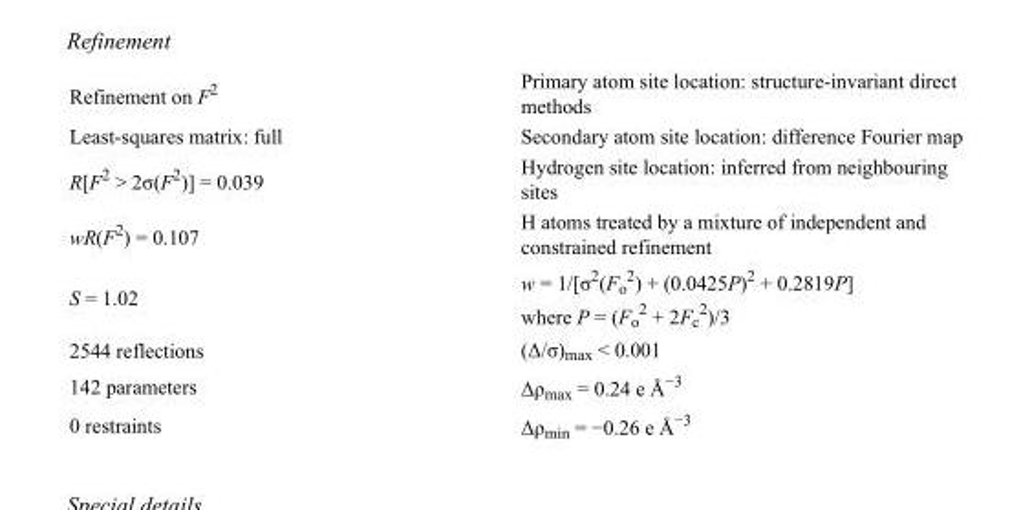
<table><tbody><tr><td>Refinement on F<sup>2</sup></td><td>Primary atom site location: structure-invariant direct methods</td></tr><tr><td>Least-squares matrix: full</td><td>Secondary atom site location: difference Fourier map</td></tr><tr><td>R[F<sup>2</sup> &gt; 2σ(F<sup>2</sup>)] = 0.039</td><td>Hydrogen site location: inferred from neighbouring sites</td></tr><tr><td>wR(F<sup>2</sup>) = 0.107</td><td>H atoms treated by a mixture of independent and constrained refinement</td></tr><tr><td>S = 1.02</td><td>w = 1/[σ<sup>2</sup>(F<sub>o</sub> <sup>2</sup>) + (0.0425P)<sup>2</sup> + 0.2819P] where P = (F<sub>o</sub> <sup>2</sup> + 2F<sub>c</sub> <sup>2</sup>)/3</td></tr><tr><td>2544 reflections</td><td>(Δ/σ)<sub>max</sub> &lt; 0.001</td></tr><tr><td>142 parameters</td><td>Δρ<sub>max</sub> = 0.24 e Å<sup>−3</sup></td></tr><tr><td>0 restraints</td><td>Δρ<sub>min</sub> = −0.26 e Å<sup>−3</sup></td></tr></tbody></table>